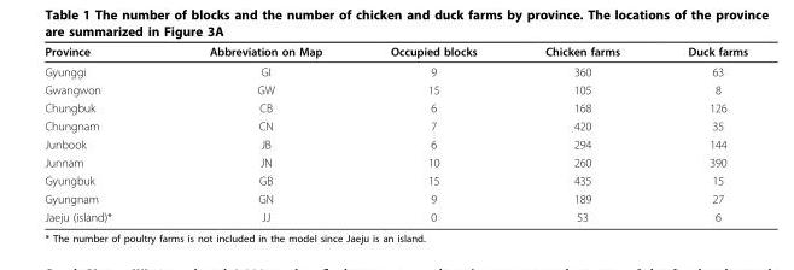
<table><thead><tr><td>Province</td><td>Abbreviation on Map</td><td>Occupied blocks</td><td>Chicken farms</td><td>Duck farms</td></tr></thead><tbody><tr><td>Gyunggi</td><td>GI</td><td>9</td><td>360</td><td>63</td></tr><tr><td>Gwangwon</td><td>GW</td><td>15</td><td>105</td><td>8</td></tr><tr><td>Chungbuk</td><td>CB</td><td>6</td><td>168</td><td>126</td></tr><tr><td>Chungnam</td><td>CN</td><td>7</td><td>420</td><td>35</td></tr><tr><td>Junbook</td><td>JB</td><td>6</td><td>294</td><td>144</td></tr><tr><td>Junnam</td><td>JN</td><td>10</td><td>260</td><td>390</td></tr><tr><td>Gyungbuk</td><td>GB</td><td>15</td><td>435</td><td>15</td></tr><tr><td>Gyungnam</td><td>GN</td><td>9</td><td>189</td><td>27</td></tr><tr><td>Jaeju (island)*</td><td>JJ</td><td>0</td><td>53</td><td>6</td></tr></tbody></table>